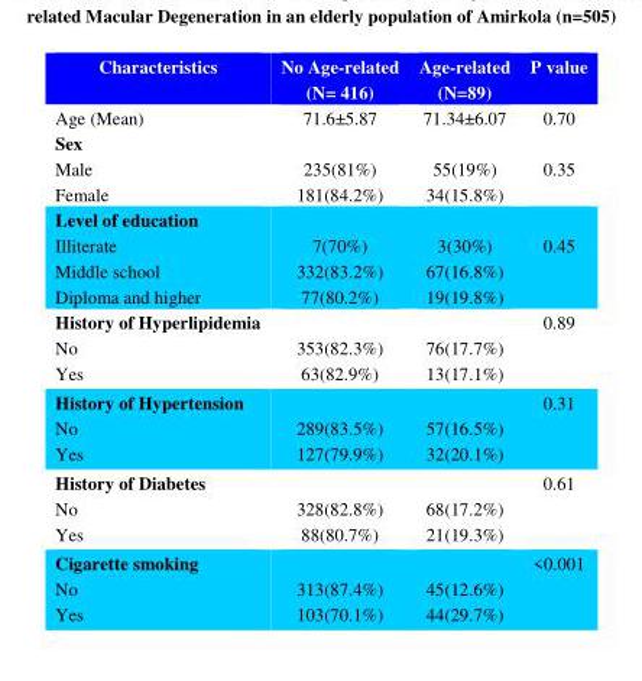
<table><thead><tr><td>Characteristics</td><td>No Age-related (N= 416)</td><td>Age-related (N=89)</td><td>P value</td></tr></thead><tbody><tr><td>Age (Mean)</td><td>71.6±5.87</td><td>71.34±6.07</td><td>0.70</td></tr><tr><td>Sex Male Female</td><td>235(81%) 181(84.2%)</td><td>55(19%) 34(15.8%)</td><td>0.35</td></tr><tr><td>Level of education Illiterate Middle school Diploma and higher</td><td>7(70%) 332(83.2%) 77(80.2%)</td><td>3(30%) 67(16.8%) 19(19.8%)</td><td>0.45</td></tr><tr><td>History of Hyperlipidemia No Yes</td><td>353(82.3%) 63(82.9%)</td><td>76(17.7%) 13(17.1%)</td><td>0.89</td></tr><tr><td>History of Hypertension No Yes</td><td>289(83.5%) 127(79.9%)</td><td>57(16.5%) 32(20.1%)</td><td>0.31</td></tr><tr><td>History of Diabetes No Yes</td><td>328(82.8%) 88(80.7%)</td><td>68(17.2%) 21(19.3%)</td><td>0.61</td></tr><tr><td>Cigarette smoking No Yes</td><td>313(87.4%) 103(70.1%)</td><td>45(12.6%) 44(29.7%)</td><td>&lt;0.001</td></tr></tbody></table>